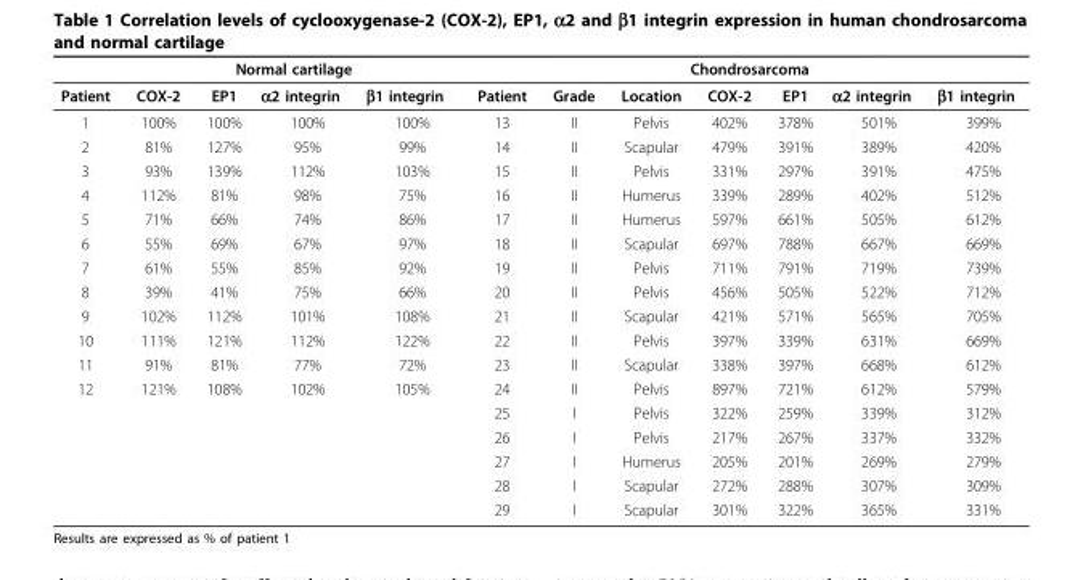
<table><thead><tr><td rowspan="2">Patient</td><td colspan="4">Normal cartilage</td><td colspan="7">Chondrosarcoma</td></tr><tr><td>COX-2</td><td>EP1</td><td>α2 integrin</td><td>β1 integrin</td><td>Patient</td><td>Grade</td><td>Location</td><td>COX-2</td><td>EP1</td><td>α2 integrin</td><td>β1 integrin</td></tr></thead><tbody><tr><td>1</td><td>100%</td><td>100%</td><td>100%</td><td>100%</td><td>13</td><td>II</td><td>Pelvis</td><td>402%</td><td>378%</td><td>501%</td><td>399%</td></tr><tr><td>2</td><td>81%</td><td>127%</td><td>95%</td><td>99%</td><td>14</td><td>II</td><td>Scapular</td><td>479%</td><td>391%</td><td>389%</td><td>420%</td></tr><tr><td>3</td><td>93%</td><td>139%</td><td>112%</td><td>103%</td><td>15</td><td>II</td><td>Pelvis</td><td>331%</td><td>297%</td><td>391%</td><td>475%</td></tr><tr><td>4</td><td>112%</td><td>81%</td><td>98%</td><td>75%</td><td>16</td><td>II</td><td>Humerus</td><td>339%</td><td>289%</td><td>402%</td><td>512%</td></tr><tr><td>5</td><td>71%</td><td>66%</td><td>74%</td><td>86%</td><td>17</td><td>II</td><td>Humerus</td><td>597%</td><td>661%</td><td>505%</td><td>612%</td></tr><tr><td>6</td><td>55%</td><td>69%</td><td>67%</td><td>97%</td><td>18</td><td>II</td><td>Scapular</td><td>697%</td><td>788%</td><td>667%</td><td>669%</td></tr><tr><td>7</td><td>61%</td><td>55%</td><td>85%</td><td>92%</td><td>19</td><td>II</td><td>Pelvis</td><td>711%</td><td>791%</td><td>719%</td><td>739%</td></tr><tr><td>8</td><td>39%</td><td>41%</td><td>75%</td><td>66%</td><td>20</td><td>II</td><td>Pelvis</td><td>456%</td><td>505%</td><td>522%</td><td>712%</td></tr><tr><td>9</td><td>102%</td><td>112%</td><td>101%</td><td>108%</td><td>21</td><td>II</td><td>Scapular</td><td>421%</td><td>571%</td><td>565%</td><td>705%</td></tr><tr><td>10</td><td>111%</td><td>121%</td><td>112%</td><td>122%</td><td>22</td><td>II</td><td>Pelvis</td><td>397%</td><td>339%</td><td>631%</td><td>669%</td></tr><tr><td>11</td><td>91%</td><td>81%</td><td>77%</td><td>72%</td><td>23</td><td>II</td><td>Scapular</td><td>338%</td><td>397%</td><td>668%</td><td>612%</td></tr><tr><td rowspan="6">12</td><td>121%</td><td>108%</td><td>102%</td><td>105%</td><td>24</td><td>II</td><td>Pelvis</td><td>897%</td><td>721%</td><td>612%</td><td>579%</td></tr><tr><td></td><td></td><td></td><td></td><td>25</td><td>I</td><td>Pelvis</td><td>322%</td><td>259%</td><td>339%</td><td>312%</td></tr><tr><td></td><td></td><td></td><td></td><td>26</td><td>I</td><td>Pelvis</td><td>217%</td><td>267%</td><td>337%</td><td>332%</td></tr><tr><td></td><td></td><td></td><td></td><td>27</td><td>I</td><td>Humerus</td><td>205%</td><td>201%</td><td>269%</td><td>279%</td></tr><tr><td></td><td></td><td></td><td></td><td>28</td><td>I</td><td>Scapular</td><td>272%</td><td>288%</td><td>307%</td><td>309%</td></tr><tr><td></td><td></td><td></td><td></td><td>29</td><td>I</td><td>Scapular</td><td>301%</td><td>322%</td><td>365%</td><td>331%</td></tr></tbody></table>